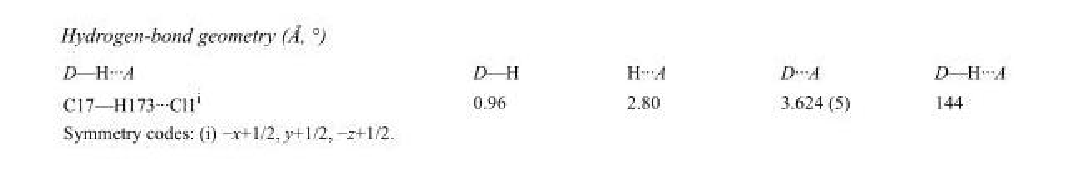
<table><tbody><tr><td>D—H···A</td><td>D—H</td><td>H···A</td><td>D···A</td><td>D—H···A</td></tr><tr><td>C17—H173···Cl1<sup>i</sup></td><td>0.96</td><td>2.80</td><td>3.624 (5)</td><td>144</td></tr></tbody></table>